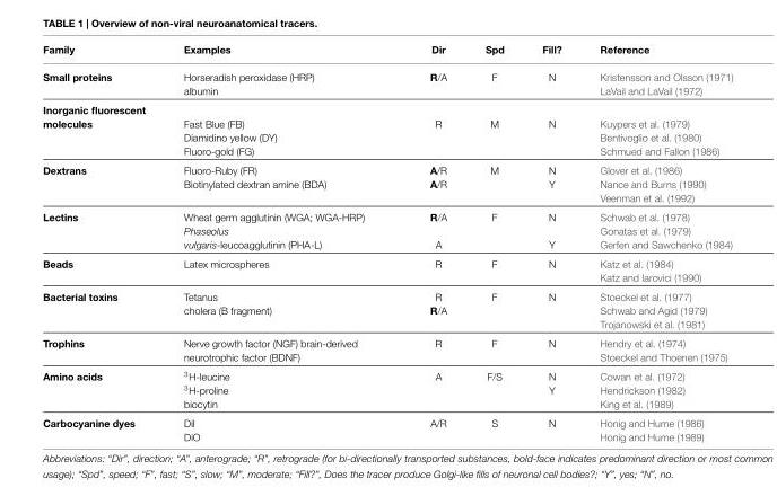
<table><thead><tr><td>Family</td><td>Examples</td><td>Dir</td><td>Spd</td><td>Fill?</td><td>Reference</td></tr></thead><tbody><tr><td>Small proteins</td><td>Horseradish peroxidase (HRP) albumin</td><td>R/A</td><td>F</td><td>N</td><td>Kristensson and Olsson (1971) LaVail and LaVail (1972)</td></tr><tr><td rowspan="3">Inorganic fluorescent molecules</td><td>Fast Blue (FB)</td><td>R</td><td>M</td><td>N</td><td>Kuypers et al. (1979)</td></tr><tr><td>Diamidino yellow (DY)</td><td></td><td></td><td></td><td>Bentivoglio et al. (1980)</td></tr><tr><td>Fluoro-gold (FG)</td><td></td><td></td><td></td><td>Schmued and Fallon (1986)</td></tr><tr><td rowspan="3">Dextrans</td><td>Fluoro-Ruby (FR)</td><td>A/R</td><td>M</td><td>N</td><td>Glover et al. (1986)</td></tr><tr><td>Biotinylated dextran amine (BDA)</td><td>A/R</td><td></td><td>Y</td><td>Nance and Burns (1990)</td></tr><tr><td></td><td></td><td></td><td></td><td>Veenman et al. (1992)</td></tr><tr><td rowspan="3">Lectins</td><td>Wheat germ agglutinin (WGA; WGA-HRP)</td><td>R/A</td><td>F</td><td>N</td><td>Schwab et al. (1978)</td></tr><tr><td>Phaseolus</td><td></td><td></td><td></td><td>Gonatas et al. (1979)</td></tr><tr><td>vulgaris-leucoagglutinin (PHA-L)</td><td>A</td><td></td><td>Y</td><td>Gerfen and Sawchenko (1984)</td></tr><tr><td>Beads</td><td>Latex microspheres</td><td>R</td><td>F</td><td>N</td><td>Katz et al. (1984) Katz and Iarovici (1990)</td></tr><tr><td rowspan="3">Bacterial toxins</td><td>Tetanus</td><td>R</td><td>F</td><td>N</td><td>Stoeckel et al. (1977)</td></tr><tr><td>cholera (B fragment)</td><td>R/A</td><td></td><td></td><td>Schwab and Agid (1979)</td></tr><tr><td></td><td></td><td></td><td></td><td>Trojanowski et al. (1981)</td></tr><tr><td>Trophins</td><td>Nerve growth factor (NGF) brain-derived neurotrophic factor (BDNF)</td><td>R</td><td>F</td><td>N</td><td>Hendry et al. (1974) Stoeckel and Thoenen (1975)</td></tr><tr><td rowspan="3">Amino acids</td><td><sup>3</sup>H-leucine</td><td>A</td><td>F/S</td><td>N</td><td>Cowan et al. (1972)</td></tr><tr><td><sup>3</sup>H-proline</td><td></td><td></td><td>Y</td><td>Hendrickson (1982)</td></tr><tr><td>biocytin</td><td></td><td></td><td></td><td>King et al. (1989)</td></tr><tr><td rowspan="2">Carbocyanine dyes</td><td>DiI</td><td>A/R</td><td>S</td><td>N</td><td>Honig and Hume (1986)</td></tr><tr><td>DiO</td><td></td><td></td><td></td><td>Honig and Hume (1989)</td></tr></tbody></table>